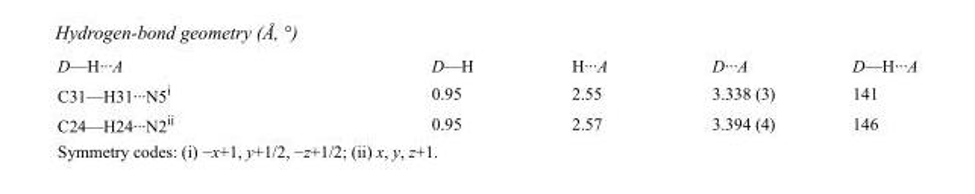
<table><tbody><tr><td>D—H···A</td><td>D—H</td><td>H···A</td><td>D···A</td><td>D—H···A</td></tr><tr><td>C31—H31···N5<sup>i</sup></td><td>0.95</td><td>2.55</td><td>3.338 (3)</td><td>141</td></tr><tr><td>C24—H24···N2<sup>ii</sup></td><td>0.95</td><td>2.57</td><td>3.394 (4)</td><td>146</td></tr></tbody></table>